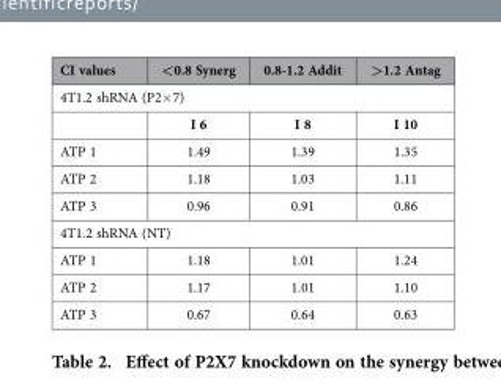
<table><thead><tr><td>CI values</td><td>&lt;0.8 Synerg</td><td>0.8-1.2 Addit</td><td>&gt;1.2 Antag</td></tr></thead><tbody><tr><td colspan="4">4T1.2 shRNA (P2× 7)</td></tr><tr><td></td><td>I 6</td><td>I 8</td><td>I 10</td></tr><tr><td>ATP 1</td><td>1.49</td><td>1.39</td><td>1.35</td></tr><tr><td>ATP 2</td><td>1.18</td><td>1.03</td><td>1.11</td></tr><tr><td>ATP 3</td><td>0.96</td><td>0.91</td><td>0.86</td></tr><tr><td colspan="4">4T1.2 shRNA (NT)</td></tr><tr><td>ATP 1</td><td>1.18</td><td>1.01</td><td>1.24</td></tr><tr><td>ATP 2</td><td>1.17</td><td>1.01</td><td>1.10</td></tr><tr><td>ATP 3</td><td>0.67</td><td>0.64</td><td>0.63</td></tr></tbody></table>